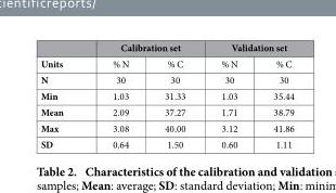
<table><thead><tr><td rowspan="2">Units</td><td colspan="2">Calibration set</td><td colspan="2">Validation set</td></tr><tr><td>% N</td><td>% C</td><td>% N</td><td>% C</td></tr></thead><tbody><tr><td>N</td><td>30</td><td>30</td><td>30</td><td>30</td></tr><tr><td>Min</td><td>1.03</td><td>31.33</td><td>1.03</td><td>35.44</td></tr><tr><td>Mean</td><td>2.09</td><td>37.27</td><td>1.71</td><td>38.79</td></tr><tr><td>Max</td><td>3.08</td><td>40.00</td><td>3.12</td><td>41.86</td></tr><tr><td>SD</td><td>0.64</td><td>1.50</td><td>0.60</td><td>1.11</td></tr></tbody></table>